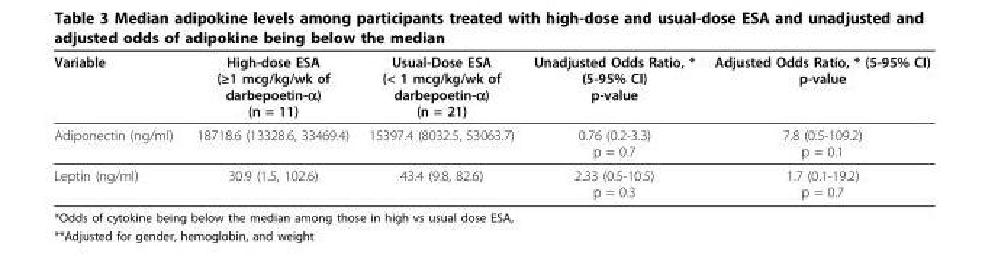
<table><thead><tr><td>Variable</td><td>High-dose ESA (≥1 mcg/kg/wk of darbepoetin-α) (n = 11)</td><td>Usual-Dose ESA (&lt; 1 mcg/kg/wk of darbepoetin-α) (n = 21)</td><td>Unadjusted Odds Ratio, * (5-95% CI) p-value</td><td>Adjusted Odds Ratio, * (5-95% CI) p-value</td></tr></thead><tbody><tr><td>Adiponectin (ng/ml)</td><td>18718.6 (13328.6, 33469.4)</td><td>15397.4 (8032.5, 53063.7)</td><td>0.76 (0.2-3.3) p = 0.7</td><td>7.8 (0.5-109.2) p = 0.1</td></tr><tr><td>Leptin (ng/ml)</td><td>30.9 (1.5, 102.6)</td><td>43.4 (9.8, 82.6)</td><td>2.33 (0.5-10.5) p = 0.3</td><td>1.7 (0.1-19.2) p = 0.7</td></tr></tbody></table>